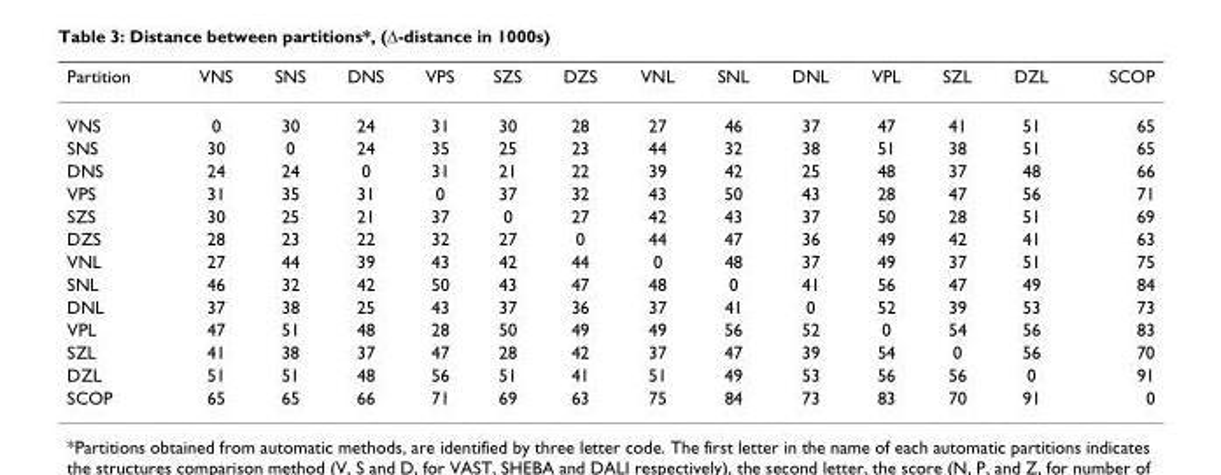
<table><thead><tr><td>Partition</td><td>VNS</td><td>SNS</td><td>DNS</td><td>VPS</td><td>SZS</td><td>DZS</td><td>VNL</td><td>SNL</td><td>DNL</td><td>VPL</td><td>SZL</td><td>DZL</td><td>SCOP</td></tr></thead><tbody><tr><td>VNS</td><td>0</td><td>30</td><td>24</td><td>31</td><td>30</td><td>28</td><td>27</td><td>46</td><td>37</td><td>47</td><td>41</td><td>51</td><td>65</td></tr><tr><td>SNS</td><td>30</td><td>0</td><td>24</td><td>35</td><td>25</td><td>23</td><td>44</td><td>32</td><td>38</td><td>51</td><td>38</td><td>51</td><td>65</td></tr><tr><td>DNS</td><td>24</td><td>24</td><td>0</td><td>31</td><td>21</td><td>22</td><td>39</td><td>42</td><td>25</td><td>48</td><td>37</td><td>48</td><td>66</td></tr><tr><td>VPS</td><td>31</td><td>35</td><td>31</td><td>0</td><td>37</td><td>32</td><td>43</td><td>50</td><td>43</td><td>28</td><td>47</td><td>56</td><td>71</td></tr><tr><td>SZS</td><td>30</td><td>25</td><td>21</td><td>37</td><td>0</td><td>27</td><td>42</td><td>43</td><td>37</td><td>50</td><td>28</td><td>51</td><td>69</td></tr><tr><td>DZS</td><td>28</td><td>23</td><td>22</td><td>32</td><td>27</td><td>0</td><td>44</td><td>47</td><td>36</td><td>49</td><td>42</td><td>41</td><td>63</td></tr><tr><td>VNL</td><td>27</td><td>44</td><td>39</td><td>43</td><td>42</td><td>44</td><td>0</td><td>48</td><td>37</td><td>49</td><td>37</td><td>51</td><td>75</td></tr><tr><td>SNL</td><td>46</td><td>32</td><td>42</td><td>50</td><td>43</td><td>47</td><td>48</td><td>0</td><td>41</td><td>56</td><td>47</td><td>49</td><td>84</td></tr><tr><td>DNL</td><td>37</td><td>38</td><td>25</td><td>43</td><td>37</td><td>36</td><td>37</td><td>41</td><td>0</td><td>52</td><td>39</td><td>53</td><td>73</td></tr><tr><td>VPL</td><td>47</td><td>51</td><td>48</td><td>28</td><td>50</td><td>49</td><td>49</td><td>56</td><td>52</td><td>0</td><td>54</td><td>56</td><td>83</td></tr><tr><td>SZL</td><td>41</td><td>38</td><td>37</td><td>47</td><td>28</td><td>42</td><td>37</td><td>47</td><td>39</td><td>54</td><td>0</td><td>56</td><td>70</td></tr><tr><td>DZL</td><td>51</td><td>51</td><td>48</td><td>56</td><td>51</td><td>41</td><td>51</td><td>49</td><td>53</td><td>56</td><td>56</td><td>0</td><td>91</td></tr><tr><td>SCOP</td><td>65</td><td>65</td><td>66</td><td>71</td><td>69</td><td>63</td><td>75</td><td>84</td><td>73</td><td>83</td><td>70</td><td>91</td><td>0</td></tr></tbody></table>